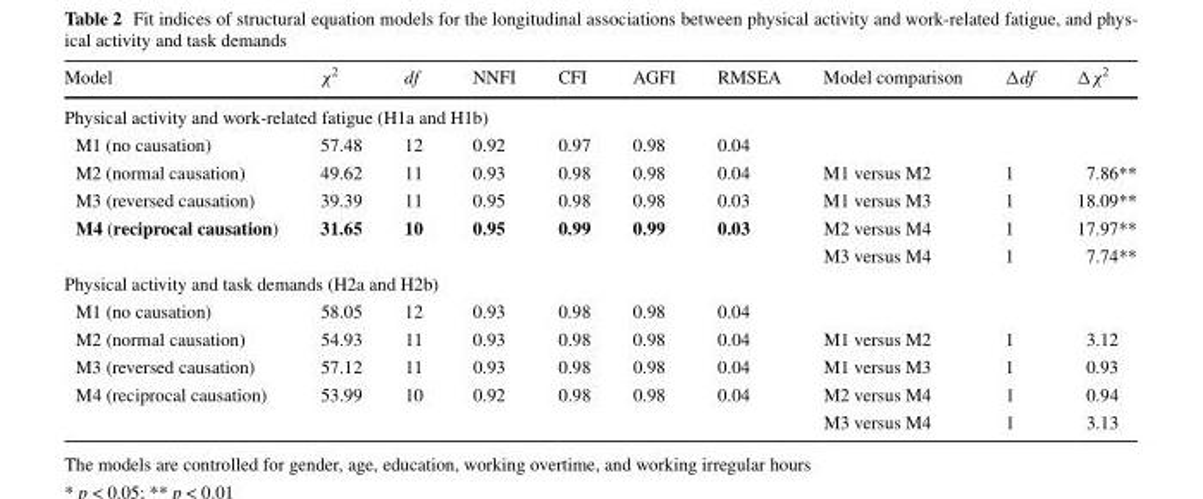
<table><thead><tr><td>Model</td><td>χ<sup>2</sup></td><td>df</td><td>NNFI</td><td>CFI</td><td>AGFI</td><td>RMSEA</td><td>Model comparison</td><td>Δdf</td><td>Δχ<sup>2</sup></td></tr></thead><tbody><tr><td colspan="10">Physical activity and work-related fatigue (H1a and H1b)</td></tr><tr><td>M1 (no causation)</td><td>57.48</td><td>12</td><td>0.92</td><td>0.97</td><td>0.98</td><td>0.04</td><td></td><td></td><td></td></tr><tr><td>M2 (normal causation)</td><td>49.62</td><td>11</td><td>0.93</td><td>0.98</td><td>0.98</td><td>0.04</td><td>M1 versus M2</td><td>1</td><td>7.86**</td></tr><tr><td>M3 (reversed causation)</td><td>39.39</td><td>11</td><td>0.95</td><td>0.98</td><td>0.98</td><td>0.03</td><td>M1 versus M3</td><td>1</td><td>18.09**</td></tr><tr><td rowspan="2">M4 (reciprocal causation)</td><td rowspan="2">31.65</td><td rowspan="2">10</td><td rowspan="2">0.95</td><td rowspan="2">0.99</td><td rowspan="2">0.99</td><td rowspan="2">0.03</td><td>M2 versus M4</td><td>1</td><td>17.97**</td></tr><tr><td>M3 versus M4</td><td>1</td><td>7.74**</td></tr><tr><td colspan="10">Physical activity and task demands (H2a and H2b)</td></tr><tr><td>M1 (no causation)</td><td>58.05</td><td>12</td><td>0.93</td><td>0.98</td><td>0.98</td><td>0.04</td><td></td><td></td><td></td></tr><tr><td>M2 (normal causation)</td><td>54.93</td><td>11</td><td>0.93</td><td>0.98</td><td>0.98</td><td>0.04</td><td>M1 versus M2</td><td>1</td><td>3.12</td></tr><tr><td>M3 (reversed causation)</td><td>57.12</td><td>11</td><td>0.93</td><td>0.98</td><td>0.98</td><td>0.04</td><td>M1 versus M3</td><td>1</td><td>0.93</td></tr><tr><td rowspan="2">M4 (reciprocal causation)</td><td>53.99</td><td>10</td><td>0.92</td><td>0.98</td><td>0.98</td><td>0.04</td><td>M2 versus M4</td><td>1</td><td>0.94</td></tr><tr><td></td><td></td><td></td><td></td><td></td><td></td><td>M3 versus M4</td><td>1</td><td>3.13</td></tr></tbody></table>